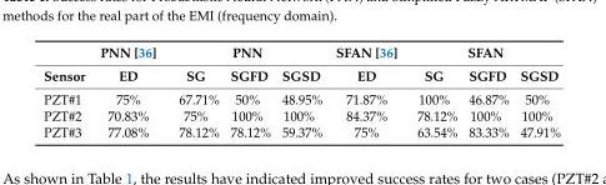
<table><thead><tr><td rowspan="2">Sensor</td><td rowspan="2">PNN [36] ED</td><td colspan="3">PNN</td><td rowspan="2">SFAN [36] ED</td><td colspan="3">SFAN</td></tr><tr><td>SG</td><td>SGFD</td><td>SGSD</td><td>SG</td><td>SGFD</td><td>SGSD</td></tr></thead><tbody><tr><td>PZT#1</td><td>75%</td><td>67.71%</td><td>50%</td><td>48.95%</td><td>71.87%</td><td>100%</td><td>46.87%</td><td>50%</td></tr><tr><td>PZT#2</td><td>70.83%</td><td>75%</td><td>100%</td><td>100%</td><td>84.37%</td><td>78.12%</td><td>100%</td><td>100%</td></tr><tr><td>PZT#3</td><td>77.08%</td><td>78.12%</td><td>78.12%</td><td>59.37%</td><td>75%</td><td>63.54%</td><td>83.33%</td><td>47.91%</td></tr></tbody></table>